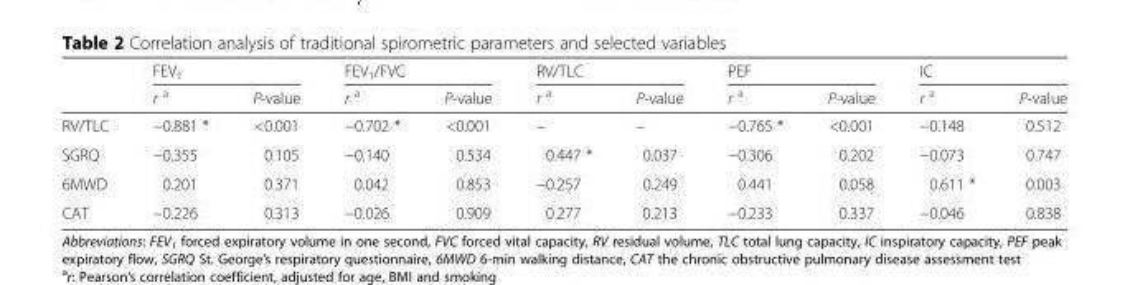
<table><thead><tr><td rowspan="2"></td><td colspan="2">FEV<sub>1</sub></td><td colspan="2">FEV<sub>1</sub>/FVC</td><td colspan="2">RV/TLC</td><td colspan="2">PEF</td><td colspan="2">IC</td></tr><tr><td>r <sup>a</sup></td><td>P-value</td><td>r <sup>a</sup></td><td>P-value</td><td>r <sup>a</sup></td><td>P-value</td><td>r <sup>a</sup></td><td>P-value</td><td>r <sup>a</sup></td><td>P-value</td></tr></thead><tbody><tr><td>RV/TLC</td><td>−0.881 *</td><td>&lt;0.001</td><td>−0.702 *</td><td>&lt;0.001</td><td>–</td><td>–</td><td>−0.765 *</td><td>&lt;0.001</td><td>−0.148</td><td>0.512</td></tr><tr><td>SGRQ</td><td>−0.355</td><td>0.105</td><td>−0.140</td><td>0.534</td><td>0.447 *</td><td>0.037</td><td>−0.306</td><td>0.202</td><td>−0.073</td><td>0.747</td></tr><tr><td>6MWD</td><td>0.201</td><td>0.371</td><td>0.042</td><td>0.853</td><td>−0.257</td><td>0.249</td><td>0.441</td><td>0.058</td><td>0.611 *</td><td>0.003</td></tr><tr><td>CAT</td><td>−0.226</td><td>0.313</td><td>−0.026</td><td>0.909</td><td>0.277</td><td>0.213</td><td>−0.233</td><td>0.337</td><td>−0.046</td><td>0.838</td></tr></tbody></table>